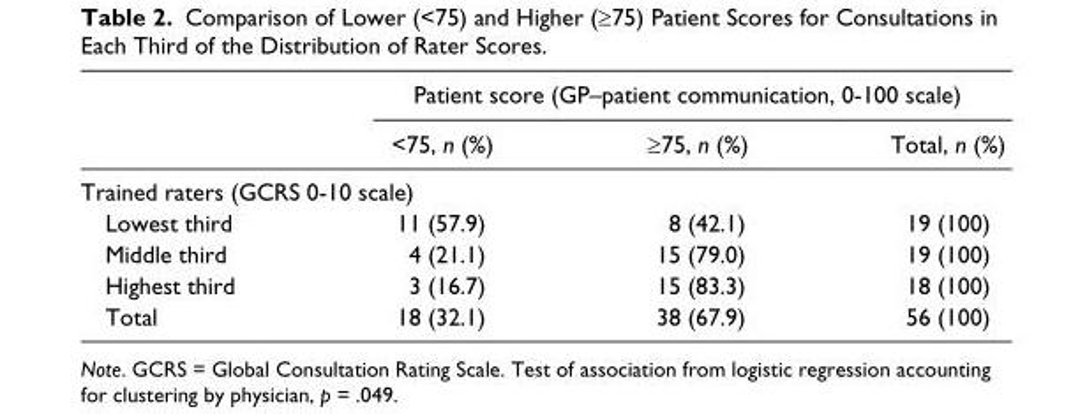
<table><thead><tr><td rowspan="2"></td><td colspan="3">Patient score (GP–patient communication, 0-100 scale)</td></tr><tr><td>&lt;75, n (%)</td><td>≥75, n (%)</td><td>Total, n (%)</td></tr></thead><tbody><tr><td colspan="4">Trained raters (GCRS 0-10 scale)</td></tr><tr><td>Lowest third</td><td>11 (57.9)</td><td>8 (42.1)</td><td>19 (100)</td></tr><tr><td>Middle third</td><td>4 (21.1)</td><td>15 (79.0)</td><td>19 (100)</td></tr><tr><td>Highest third</td><td>3 (16.7)</td><td>15 (83.3)</td><td>18 (100)</td></tr><tr><td>Total</td><td>18 (32.1)</td><td>38 (67.9)</td><td>56 (100)</td></tr></tbody></table>